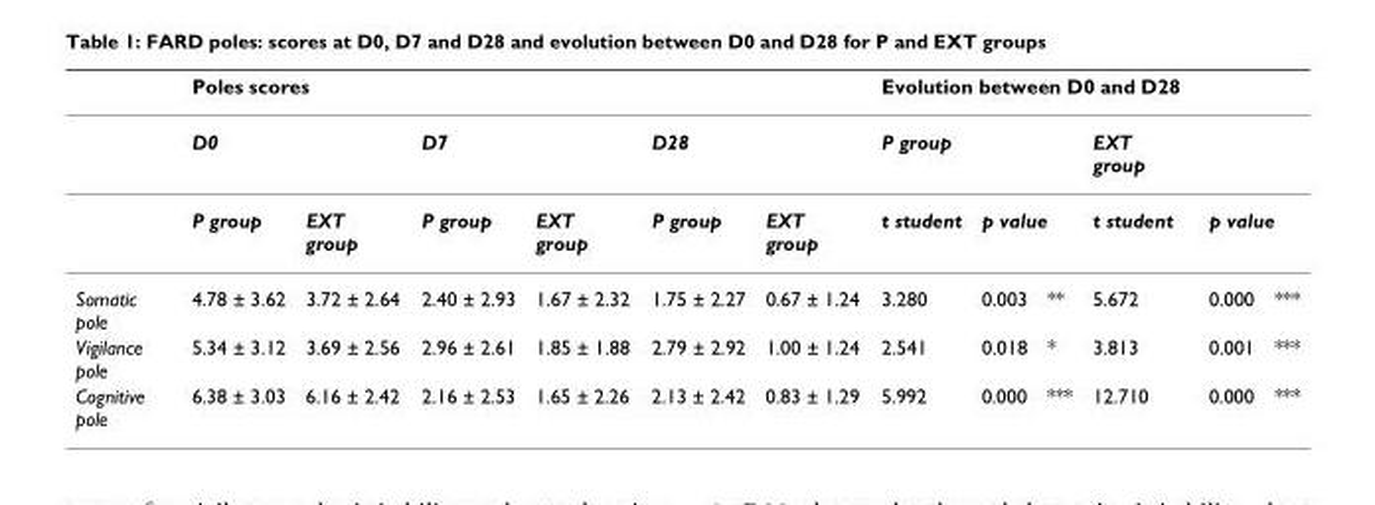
<table><thead><tr><td rowspan="2"></td><td colspan="6">Poles scores</td><td colspan="6">Evolution between D0 and D28</td></tr><tr><td>D0</td><td></td><td>D7</td><td></td><td>D28</td><td></td><td>P group</td><td></td><td></td><td>EXT group</td><td></td><td></td></tr></thead><tbody><tr><td></td><td>P group</td><td>EXT group</td><td>P group</td><td>EXT group</td><td>P group</td><td>EXT group</td><td>t student</td><td colspan="2">p value</td><td>t student</td><td colspan="2">p value</td></tr><tr><td>Somatic pole</td><td>4.78 ± 3.62</td><td>3.72 ± 2.64</td><td>2.40 ± 2.93</td><td>1.67 ± 2.32</td><td>1.75 ± 2.27</td><td>0.67 ± 1.24</td><td>3.280</td><td>0.003</td><td>**</td><td>5.672</td><td>0.000</td><td>***</td></tr><tr><td>Vigilance pole</td><td>5.34 ± 3.12</td><td>3.69 ± 2.56</td><td>2.96 ± 2.61</td><td>1.85 ± 1.88</td><td>2.79 ± 2.92</td><td>1.00 ± 1.24</td><td>2.541</td><td>0.018</td><td>*</td><td>3.813</td><td>0.001</td><td>***</td></tr><tr><td>Cognitive pole</td><td>6.38 ± 3.03</td><td>6.16 ± 2.42</td><td>2.16 ± 2.53</td><td>1.65 ± 2.26</td><td>2.13 ± 2.42</td><td>0.83 ± 1.29</td><td>5.992</td><td>0.000</td><td>***</td><td>12.710</td><td>0.000</td><td>***</td></tr></tbody></table>